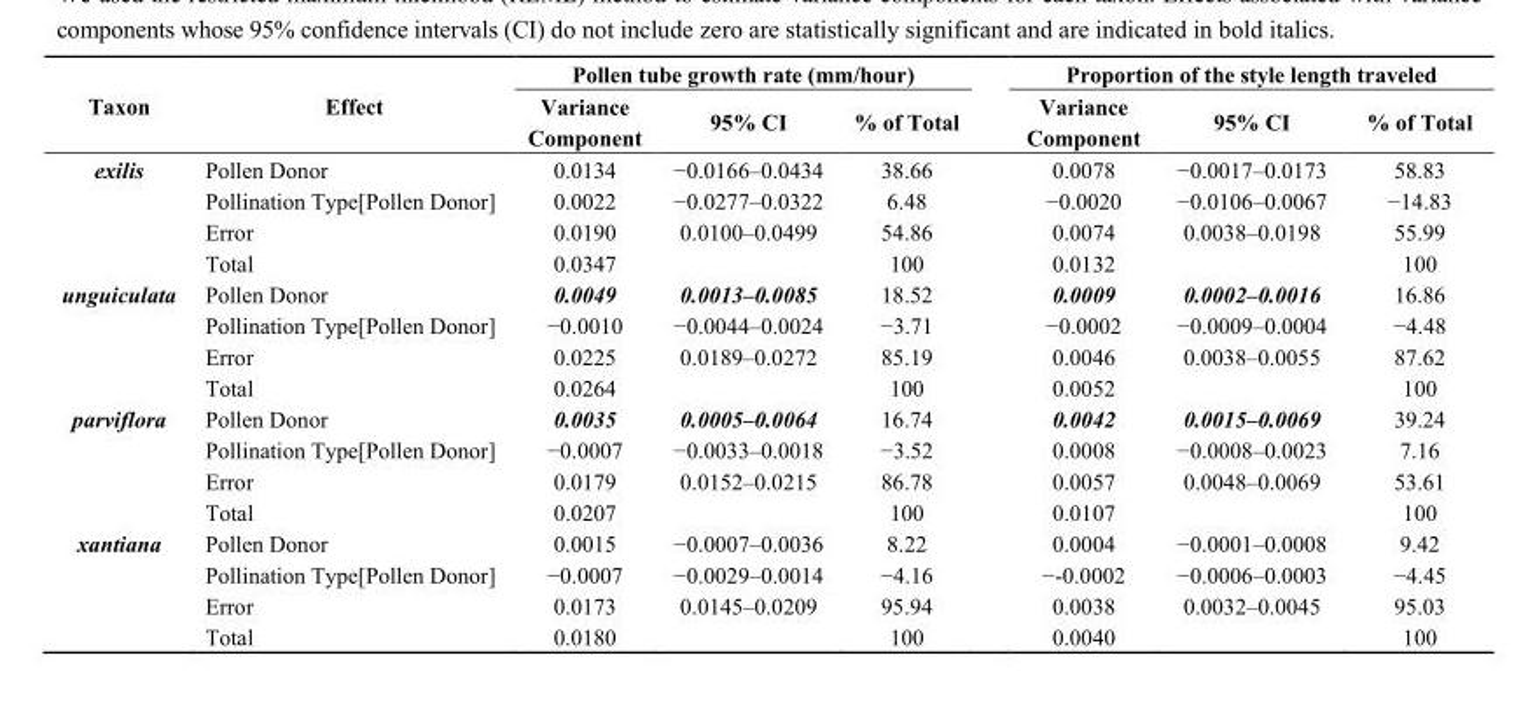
<table><thead><tr><td rowspan="2">Taxon</td><td rowspan="2">Effect</td><td colspan="3">Pollen tube growth rate (mm/hour)</td><td colspan="3">Proportion of the style length traveled</td></tr><tr><td>Variance Component</td><td>95% CI</td><td>% of Total</td><td>Variance Component</td><td>95% CI</td><td>% of Total</td></tr></thead><tbody><tr><td rowspan="4">exilis</td><td>Pollen Donor</td><td>0.0134</td><td>−0.0166–0.0434</td><td>38.66</td><td>0.0078</td><td>−0.0017–0.0173</td><td>58.83</td></tr><tr><td>Pollination Type[Pollen Donor]</td><td>0.0022</td><td>−0.0277–0.0322</td><td>6.48</td><td>−0.0020</td><td>−0.0106–0.0067</td><td>−14.83</td></tr><tr><td>Error</td><td>0.0190</td><td>0.0100–0.0499</td><td>54.86</td><td>0.0074</td><td>0.0038–0.0198</td><td>55.99</td></tr><tr><td>Total</td><td>0.0347</td><td></td><td>100</td><td>0.0132</td><td></td><td>100</td></tr><tr><td rowspan="4">unguiculata</td><td>Pollen Donor</td><td>0.0049</td><td>0.0013–0.0085</td><td>18.52</td><td>0.0009</td><td>0.0002–0.0016</td><td>16.86</td></tr><tr><td>Pollination Type[Pollen Donor]</td><td>−0.0010</td><td>−0.0044–0.0024</td><td>−3.71</td><td>−0.0002</td><td>−0.0009–0.0004</td><td>−4.48</td></tr><tr><td>Error</td><td>0.0225</td><td>0.0189–0.0272</td><td>85.19</td><td>0.0046</td><td>0.0038–0.0055</td><td>87.62</td></tr><tr><td>Total</td><td>0.0264</td><td></td><td>100</td><td>0.0052</td><td></td><td>100</td></tr><tr><td rowspan="4">parviflora</td><td>Pollen Donor</td><td>0.0035</td><td>0.0005–0.0064</td><td>16.74</td><td>0.0042</td><td>0.0015–0.0069</td><td>39.24</td></tr><tr><td>Pollination Type[Pollen Donor]</td><td>−0.0007</td><td>−0.0033–0.0018</td><td>−3.52</td><td>0.0008</td><td>−0.0008–0.0023</td><td>7.16</td></tr><tr><td>Error</td><td>0.0179</td><td>0.0152–0.0215</td><td>86.78</td><td>0.0057</td><td>0.0048–0.0069</td><td>53.61</td></tr><tr><td>Total</td><td>0.0207</td><td></td><td>100</td><td>0.0107</td><td></td><td>100</td></tr><tr><td rowspan="4">xantiana</td><td>Pollen Donor</td><td>0.0015</td><td>−0.0007–0.0036</td><td>8.22</td><td>0.0004</td><td>−0.0001–0.0008</td><td>9.42</td></tr><tr><td>Pollination Type[Pollen Donor]</td><td>−0.0007</td><td>−0.0029–0.0014</td><td>−4.16</td><td>−-0.0002</td><td>−0.0006–0.0003</td><td>−4.45</td></tr><tr><td>Error</td><td>0.0173</td><td>0.0145–0.0209</td><td>95.94</td><td>0.0038</td><td>0.0032–0.0045</td><td>95.03</td></tr><tr><td>Total</td><td>0.0180</td><td></td><td>100</td><td>0.0040</td><td></td><td>100</td></tr></tbody></table>